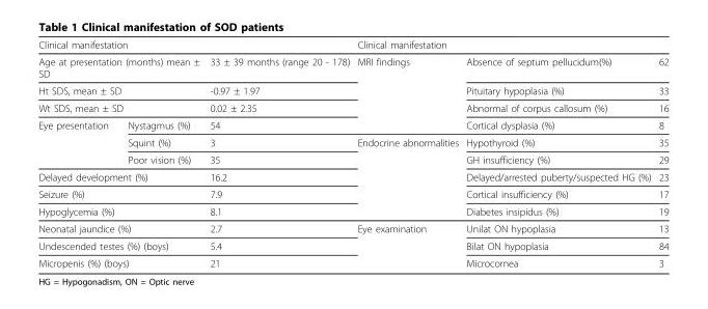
<table><thead><tr><td colspan="2">Clinical manifestation</td><td></td><td colspan="2">Clinical manifestation</td><td></td></tr></thead><tbody><tr><td colspan="2">Age at presentation (months) mean ± SD</td><td>33 ± 39 months (range 20 - 178)</td><td>MRI findings</td><td>Absence of septum pellucidum(%)</td><td>62</td></tr><tr><td colspan="2">Ht SDS, mean ± SD</td><td>-0.97 ± 1.97</td><td></td><td>Pituitary hypoplasia (%)</td><td>33</td></tr><tr><td colspan="2">Wt SDS, mean ± SD</td><td>0.02 ± 2.35</td><td></td><td>Abnormal of corpus callosum (%)</td><td>16</td></tr><tr><td rowspan="3">Eye presentation</td><td>Nystagmus (%)</td><td>54</td><td></td><td>Cortical dysplasia (%)</td><td>8</td></tr><tr><td>Squint (%)</td><td>3</td><td>Endocrine abnormalities</td><td>Hypothyroid (%)</td><td>35</td></tr><tr><td>Poor vision (%)</td><td>35</td><td></td><td>GH insufficiency (%)</td><td>29</td></tr><tr><td colspan="2">Delayed development (%)</td><td>16.2</td><td></td><td>Delayed/arrested puberty/suspected HG (%)</td><td>23</td></tr><tr><td colspan="2">Seizure (%)</td><td>7.9</td><td></td><td>Cortical insufficiency (%)</td><td>17</td></tr><tr><td colspan="2">Hypoglycemia (%)</td><td>8.1</td><td></td><td>Diabetes insipidus (%)</td><td>19</td></tr><tr><td colspan="2">Neonatal jaundice (%)</td><td>2.7</td><td>Eye examination</td><td>Unilat ON hypoplasia</td><td>13</td></tr><tr><td colspan="2">Undescended testes (%) (boys)</td><td>5.4</td><td></td><td>Bilat ON hypoplasia</td><td>84</td></tr><tr><td colspan="2">Micropenis (%) (boys)</td><td>21</td><td></td><td>Microcornea</td><td>3</td></tr></tbody></table>